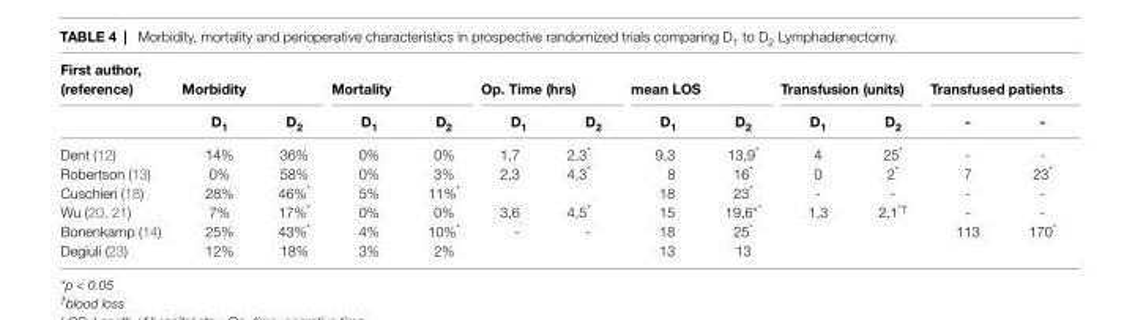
<table><thead><tr><td rowspan="2">First author, (reference)</td><td colspan="2">Morbidity</td><td colspan="2">Mortality</td><td colspan="2">op. Time (hrs)</td><td colspan="2">mean LoS</td><td colspan="2">Transfusion (units)</td><td colspan="2">Transfused patients</td></tr><tr><td>D<sub>1</sub></td><td>D<sub>2</sub></td><td>D<sub>1</sub></td><td>D<sub>2</sub></td><td>D<sub>1</sub></td><td>D<sub>2</sub></td><td>D<sub>1</sub></td><td>D<sub>2</sub></td><td>D<sub>1</sub></td><td>D<sub>2</sub></td><td>-</td><td>-</td></tr></thead><tbody><tr><td>Dent (12)</td><td>14%</td><td>36%</td><td>0%</td><td>0%</td><td>1,7</td><td>2,3*</td><td>9,3</td><td>13,9*</td><td>4</td><td>25*</td><td>-</td><td>-</td></tr><tr><td>Robertson (13)</td><td>0%</td><td>58%</td><td>0%</td><td>3%</td><td>2,3</td><td>4,3*</td><td>8</td><td>16*</td><td>0</td><td>2*</td><td>7</td><td>23*</td></tr><tr><td>Cuschieri (18)</td><td>28%</td><td>46%*</td><td>5%</td><td>11%*</td><td></td><td></td><td>18</td><td>23*</td><td>-</td><td>-</td><td>-</td><td>-</td></tr><tr><td>Wu (20, 21)</td><td>7%</td><td>17%*</td><td>0%</td><td>0%</td><td>3,6</td><td>4,5*</td><td>15</td><td>19,6**</td><td>1,3</td><td>2,1*<sup>†</sup></td><td>-</td><td>-</td></tr><tr><td>Bonenkamp (14)</td><td>25%</td><td>43%*</td><td>4%</td><td>10%*</td><td>-</td><td>-</td><td>18</td><td>25*</td><td></td><td></td><td>113</td><td>170*</td></tr><tr><td>Degiuli (23)</td><td>12%</td><td>18%</td><td>3%</td><td>2%</td><td></td><td></td><td>13</td><td>13</td><td></td><td></td><td></td><td></td></tr></tbody></table>